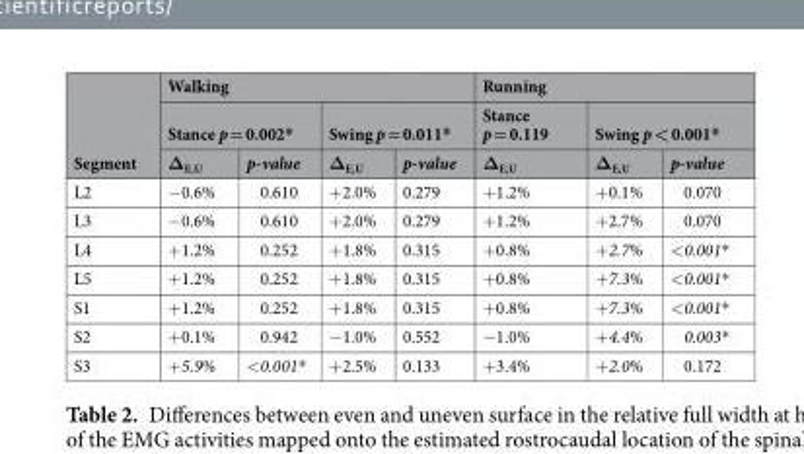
<table><thead><tr><td rowspan="3">Segment</td><td colspan="4">Walking</td><td colspan="3">Running</td></tr><tr><td colspan="2">Stance p = 0.002*</td><td colspan="2">Swing p = 0.011*</td><td rowspan="2">Stance p = 0.119 Δ<sub>E,U</sub></td><td colspan="2">Swing p &lt; 0.001*</td></tr><tr><td>Δ<sub>E,U</sub></td><td>p-value</td><td>Δ<sub>E,U</sub></td><td>p-value</td><td>Δ<sub>E,U</sub></td><td>p-value</td></tr></thead><tbody><tr><td>L2</td><td>−0.6%</td><td>0.610</td><td>+2.0%</td><td>0.279</td><td>+1.2%</td><td>+0.1%</td><td>0.070</td></tr><tr><td>L3</td><td>−0.6%</td><td>0.610</td><td>+2.0%</td><td>0.279</td><td>+1.2%</td><td>+2.7%</td><td>0.070</td></tr><tr><td>L4</td><td>+1.2%</td><td>0.252</td><td>+1.8%</td><td>0.315</td><td>+0.8%</td><td>+2.7%</td><td>&lt;0.001*</td></tr><tr><td>L5</td><td>+1.2%</td><td>0.252</td><td>+1.8%</td><td>0.315</td><td>+0.8%</td><td>+7.3%</td><td>&lt;0.001*</td></tr><tr><td>S1</td><td>+1.2%</td><td>0.252</td><td>+1.8%</td><td>0.315</td><td>+0.8%</td><td>+7.3%</td><td>&lt;0.001*</td></tr><tr><td>S2</td><td>+0.1%</td><td>0.942</td><td>−1.0%</td><td>0.552</td><td>−1.0%</td><td>+4.4%</td><td>0.003*</td></tr><tr><td>S3</td><td>+5.9%</td><td>&lt;0.001*</td><td>+2.5%</td><td>0.133</td><td>+3.4%</td><td>+2.0%</td><td>0.172</td></tr></tbody></table>